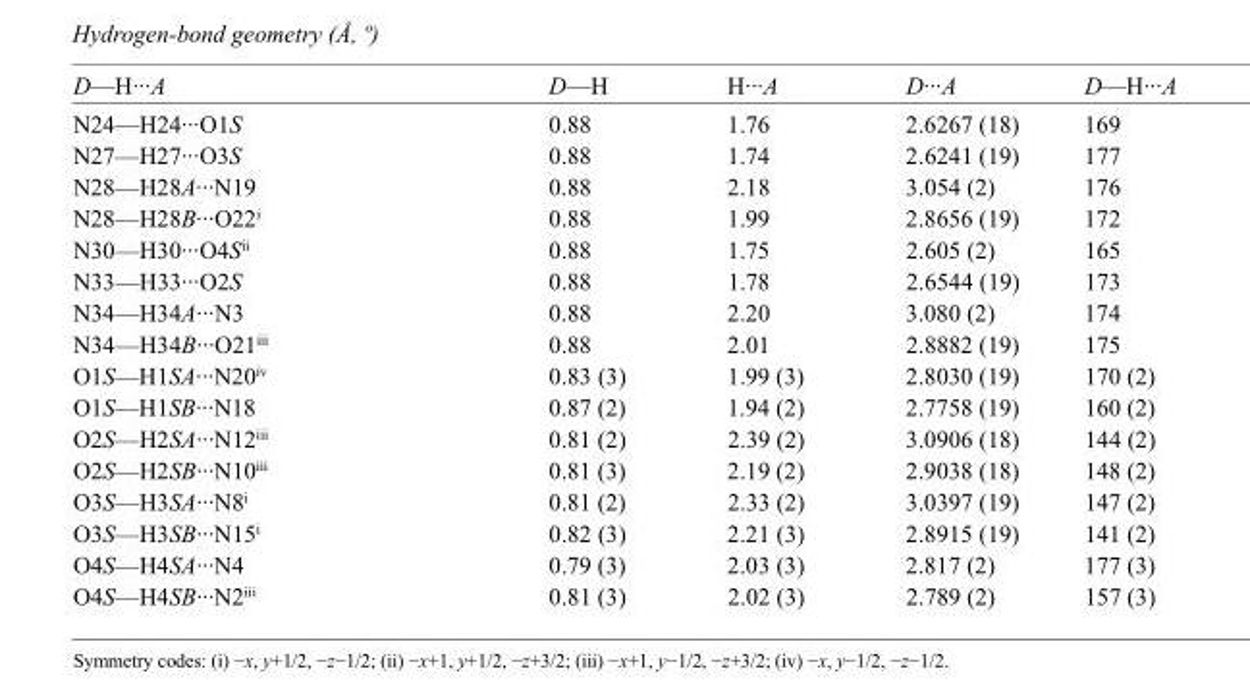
<table><tbody><tr><td>D—H···A</td><td>D—H</td><td>H···A</td><td>D···A</td><td>D—H···A</td></tr><tr><td>N24—H24···O1S</td><td>0.88</td><td>1.76</td><td>2.6267 (18)</td><td>169</td></tr><tr><td>N27—H27···O3S</td><td>0.88</td><td>1.74</td><td>2.6241 (19)</td><td>177</td></tr><tr><td>N28—H28A···N19</td><td>0.88</td><td>2.18</td><td>3.054 (2)</td><td>176</td></tr><tr><td>N28—H28B···O22<sup>i</sup></td><td>0.88</td><td>1.99</td><td>2.8656 (19)</td><td>172</td></tr><tr><td>N30—H30···O4S<sup>ii</sup></td><td>0.88</td><td>1.75</td><td>2.605 (2)</td><td>165</td></tr><tr><td>N33—H33···O2S</td><td>0.88</td><td>1.78</td><td>2.6544 (19)</td><td>173</td></tr><tr><td>N34—H34A···N3</td><td>0.88</td><td>2.20</td><td>3.080 (2)</td><td>174</td></tr><tr><td>N34—H34B···O21<sup>iii</sup></td><td>0.88</td><td>2.01</td><td>2.8882 (19)</td><td>175</td></tr><tr><td>O1S—H1SA···N20<sup>iv</sup></td><td>0.83 (3)</td><td>1.99 (3)</td><td>2.8030 (19)</td><td>170 (2)</td></tr><tr><td>O1S—H1SB···N18</td><td>0.87 (2)</td><td>1.94 (2)</td><td>2.7758 (19)</td><td>160 (2)</td></tr><tr><td>O2S—H2SA···N12<sup>iii</sup></td><td>0.81 (2)</td><td>2.39 (2)</td><td>3.0906 (18)</td><td>144 (2)</td></tr><tr><td>O2S—H2SB···N10<sup>iii</sup></td><td>0.81 (3)</td><td>2.19 (2)</td><td>2.9038 (18)</td><td>148 (2)</td></tr><tr><td>O3S—H3SA···N8<sup>i</sup></td><td>0.81 (2)</td><td>2.33 (2)</td><td>3.0397 (19)</td><td>147 (2)</td></tr><tr><td>O3S—H3SB···N15<sup>i</sup></td><td>0.82 (3)</td><td>2.21 (3)</td><td>2.8915 (19)</td><td>141 (2)</td></tr><tr><td>O4S—H4SA···N4</td><td>0.79 (3)</td><td>2.03 (3)</td><td>2.817 (2)</td><td>177 (3)</td></tr><tr><td>O4S—H4SB···N2<sup>iii</sup></td><td>0.81 (3)</td><td>2.02 (3)</td><td>2.789 (2)</td><td>157 (3)</td></tr></tbody></table>